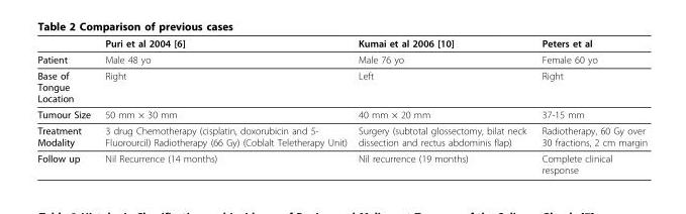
<table><thead><tr><td></td><td>Puri et al 2004 [6]</td><td>Kumai et al 2006 [10]</td><td>Peters et al</td></tr></thead><tbody><tr><td>Patient</td><td>Male 48 yo</td><td>Male 76 yo</td><td>Female 60 yo</td></tr><tr><td>Base of Tongue Location</td><td>Right</td><td>Left</td><td>Right</td></tr><tr><td>Tumour Size</td><td>50 mm × 30 mm</td><td>40 mm × 20 mm</td><td>37-15 mm</td></tr><tr><td>Treatment Modality</td><td>3 drug Chemotherapy (cisplatin, doxorubicin and 5- Fluorourcil) Radiotherapy (66 Gy) (Coblalt Teletherapy Unit)</td><td>Surgery (subtotal glossectomy, bilat neck dissection and rectus abdominis flap)</td><td>Radiotherapy, 60 Gy over 30 fractions, 2 cm margin</td></tr><tr><td>Follow up</td><td>Nil Recurrence (14 months)</td><td>Nil recurrence (19 months)</td><td>Complete clinical response</td></tr></tbody></table>